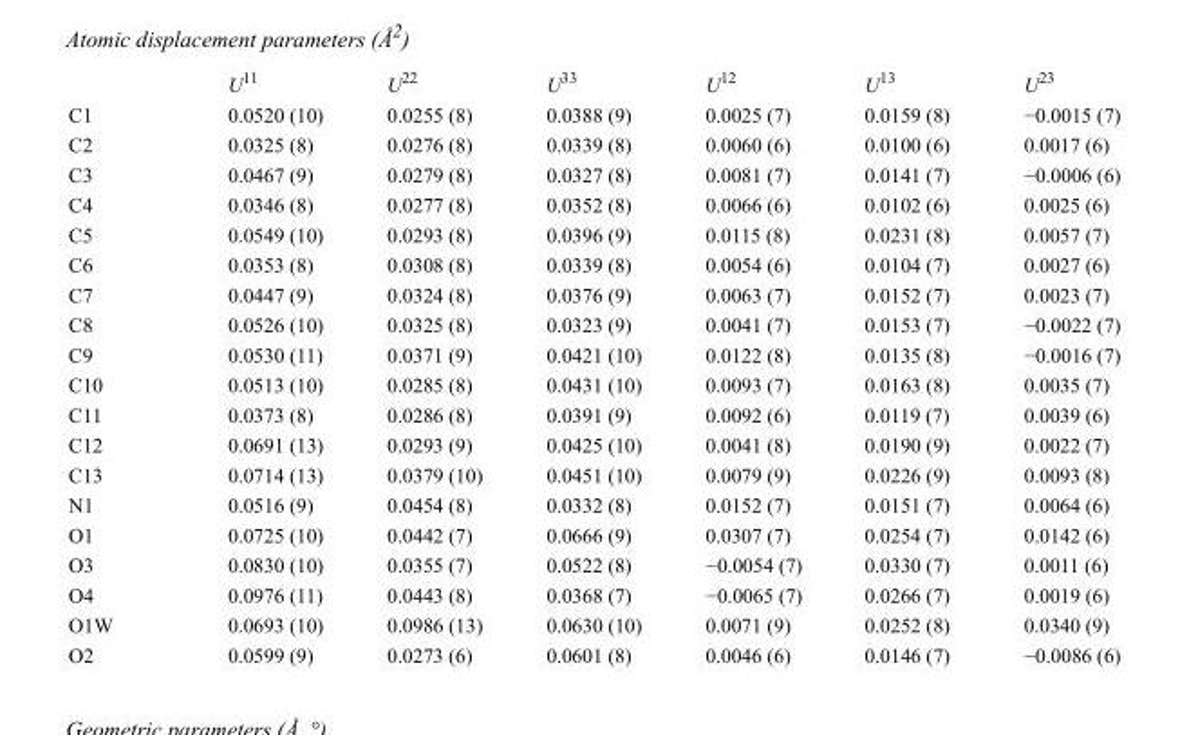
<table><thead><tr><td></td><td>U<sup>11</sup></td><td>U<sup>22</sup></td><td>U<sup>33</sup></td><td>U<sup>12</sup></td><td>U<sup>13</sup></td><td>U<sup>23</sup></td></tr></thead><tbody><tr><td>C1</td><td>0.0520 (10)</td><td>0.0255 (8)</td><td>0.0388 (9)</td><td>0.0025 (7)</td><td>0.0159 (8)</td><td>−0.0015 (7)</td></tr><tr><td>C2</td><td>0.0325 (8)</td><td>0.0276 (8)</td><td>0.0339 (8)</td><td>0.0060 (6)</td><td>0.0100 (6)</td><td>0.0017 (6)</td></tr><tr><td>C3</td><td>0.0467 (9)</td><td>0.0279 (8)</td><td>0.0327 (8)</td><td>0.0081 (7)</td><td>0.0141 (7)</td><td>−0.0006 (6)</td></tr><tr><td>C4</td><td>0.0346 (8)</td><td>0.0277 (8)</td><td>0.0352 (8)</td><td>0.0066 (6)</td><td>0.0102 (6)</td><td>0.0025 (6)</td></tr><tr><td>C5</td><td>0.0549 (10)</td><td>0.0293 (8)</td><td>0.0396 (9)</td><td>0.0115 (8)</td><td>0.0231 (8)</td><td>0.0057 (7)</td></tr><tr><td>C6</td><td>0.0353 (8)</td><td>0.0308 (8)</td><td>0.0339 (8)</td><td>0.0054 (6)</td><td>0.0104 (7)</td><td>0.0027 (6)</td></tr><tr><td>C7</td><td>0.0447 (9)</td><td>0.0324 (8)</td><td>0.0376 (9)</td><td>0.0063 (7)</td><td>0.0152 (7)</td><td>0.0023 (7)</td></tr><tr><td>C8</td><td>0.0526 (10)</td><td>0.0325 (8)</td><td>0.0323 (9)</td><td>0.0041 (7)</td><td>0.0153 (7)</td><td>−0.0022 (7)</td></tr><tr><td>C9</td><td>0.0530 (11)</td><td>0.0371 (9)</td><td>0.0421 (10)</td><td>0.0122 (8)</td><td>0.0135 (8)</td><td>−0.0016 (7)</td></tr><tr><td>C10</td><td>0.0513 (10)</td><td>0.0285 (8)</td><td>0.0431 (10)</td><td>0.0093 (7)</td><td>0.0163 (8)</td><td>0.0035 (7)</td></tr><tr><td>C11</td><td>0.0373 (8)</td><td>0.0286 (8)</td><td>0.0391 (9)</td><td>0.0092 (6)</td><td>0.0119 (7)</td><td>0.0039 (6)</td></tr><tr><td>C12</td><td>0.0691 (13)</td><td>0.0293 (9)</td><td>0.0425 (10)</td><td>0.0041 (8)</td><td>0.0190 (9)</td><td>0.0022 (7)</td></tr><tr><td>C13</td><td>0.0714 (13)</td><td>0.0379 (10)</td><td>0.0451 (10)</td><td>0.0079 (9)</td><td>0.0226 (9)</td><td>0.0093 (8)</td></tr><tr><td>N1</td><td>0.0516 (9)</td><td>0.0454 (8)</td><td>0.0332 (8)</td><td>0.0152 (7)</td><td>0.0151 (7)</td><td>0.0064 (6)</td></tr><tr><td>O1</td><td>0.0725 (10)</td><td>0.0442 (7)</td><td>0.0666 (9)</td><td>0.0307 (7)</td><td>0.0254 (7)</td><td>0.0142 (6)</td></tr><tr><td>O3</td><td>0.0830 (10)</td><td>0.0355 (7)</td><td>0.0522 (8)</td><td>−0.0054 (7)</td><td>0.0330 (7)</td><td>0.0011 (6)</td></tr><tr><td>O4</td><td>0.0976 (11)</td><td>0.0443 (8)</td><td>0.0368 (7)</td><td>−0.0065 (7)</td><td>0.0266 (7)</td><td>0.0019 (6)</td></tr><tr><td>O1W</td><td>0.0693 (10)</td><td>0.0986 (13)</td><td>0.0630 (10)</td><td>0.0071 (9)</td><td>0.0252 (8)</td><td>0.0340 (9)</td></tr><tr><td>O2</td><td>0.0599 (9)</td><td>0.0273 (6)</td><td>0.0601 (8)</td><td>0.0046 (6)</td><td>0.0146 (7)</td><td>−0.0086 (6)</td></tr></tbody></table>